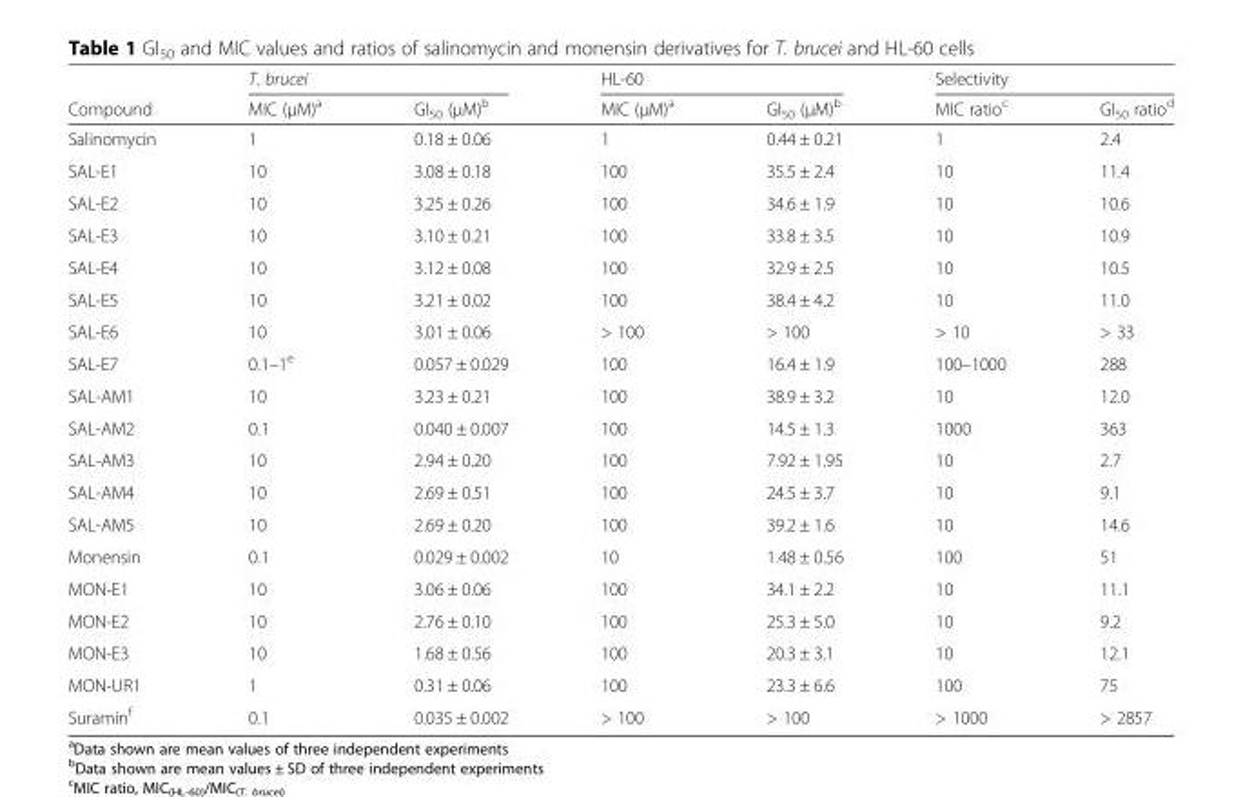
<table><thead><tr><td rowspan="2">Compound</td><td colspan="2">T. brucei</td><td colspan="2">HL-60</td><td colspan="2">Selectivity</td></tr><tr><td>MIC (μM)<sup>a</sup></td><td>GI<sub>50</sub> (μM)<sup>b</sup></td><td>MIC (μM)<sup>a</sup></td><td>GI<sub>50</sub> (μM)<sup>b</sup></td><td>MIC ratio<sup>c</sup></td><td>GI<sub>50</sub> ratio<sup>d</sup></td></tr></thead><tbody><tr><td>Salinomycin</td><td>1</td><td>0.18 ± 0.06</td><td>1</td><td>0.44 ± 0.21</td><td>1</td><td>2.4</td></tr><tr><td>SAL-E1</td><td>10</td><td>3.08 ± 0.18</td><td>100</td><td>35.5 ± 2.4</td><td>10</td><td>11.4</td></tr><tr><td>SAL-E2</td><td>10</td><td>3.25 ± 0.26</td><td>100</td><td>34.6 ± 1.9</td><td>10</td><td>10.6</td></tr><tr><td>SAL-E3</td><td>10</td><td>3.10 ± 0.21</td><td>100</td><td>33.8 ± 3.5</td><td>10</td><td>10.9</td></tr><tr><td>SAL-E4</td><td>10</td><td>3.12 ± 0.08</td><td>100</td><td>32.9 ± 2.5</td><td>10</td><td>10.5</td></tr><tr><td>SAL-E5</td><td>10</td><td>3.21 ± 0.02</td><td>100</td><td>38.4 ± 4.2</td><td>10</td><td>11.0</td></tr><tr><td>SAL-E6</td><td>10</td><td>3.01 ± 0.06</td><td>&gt; 100</td><td>&gt; 100</td><td>&gt; 10</td><td>&gt; 33</td></tr><tr><td>SAL-E7</td><td>0.1–1<sup>e</sup></td><td>0.057 ± 0.029</td><td>100</td><td>16.4 ± 1.9</td><td>100–1000</td><td>288</td></tr><tr><td>SAL-AM1</td><td>10</td><td>3.23 ± 0.21</td><td>100</td><td>38.9 ± 3.2</td><td>10</td><td>12.0</td></tr><tr><td>SAL-AM2</td><td>0.1</td><td>0.040 ± 0.007</td><td>100</td><td>14.5 ± 1.3</td><td>1000</td><td>363</td></tr><tr><td>SAL-AM3</td><td>10</td><td>2.94 ± 0.20</td><td>100</td><td>7.92 ± 1.95</td><td>10</td><td>2.7</td></tr><tr><td>SAL-AM4</td><td>10</td><td>2.69 ± 0.51</td><td>100</td><td>24.5 ± 3.7</td><td>10</td><td>9.1</td></tr><tr><td>SAL-AM5</td><td>10</td><td>2.69 ± 0.20</td><td>100</td><td>39.2 ± 1.6</td><td>10</td><td>14.6</td></tr><tr><td>Monensin</td><td>0.1</td><td>0.029 ± 0.002</td><td>10</td><td>1.48 ± 0.56</td><td>100</td><td>51</td></tr><tr><td>MON-E1</td><td>10</td><td>3.06 ± 0.06</td><td>100</td><td>34.1 ± 2.2</td><td>10</td><td>11.1</td></tr><tr><td>MON-E2</td><td>10</td><td>2.76 ± 0.10</td><td>100</td><td>25.3 ± 5.0</td><td>10</td><td>9.2</td></tr><tr><td>MON-E3</td><td>10</td><td>1.68 ± 0.56</td><td>100</td><td>20.3 ± 3.1</td><td>10</td><td>12.1</td></tr><tr><td>MON-UR1</td><td>1</td><td>0.31 ± 0.06</td><td>100</td><td>23.3 ± 6.6</td><td>100</td><td>75</td></tr><tr><td>Suramin<sup>f</sup></td><td>0.1</td><td>0.035 ± 0.002</td><td>&gt; 100</td><td>&gt; 100</td><td>&gt; 1000</td><td>&gt; 2857</td></tr></tbody></table>